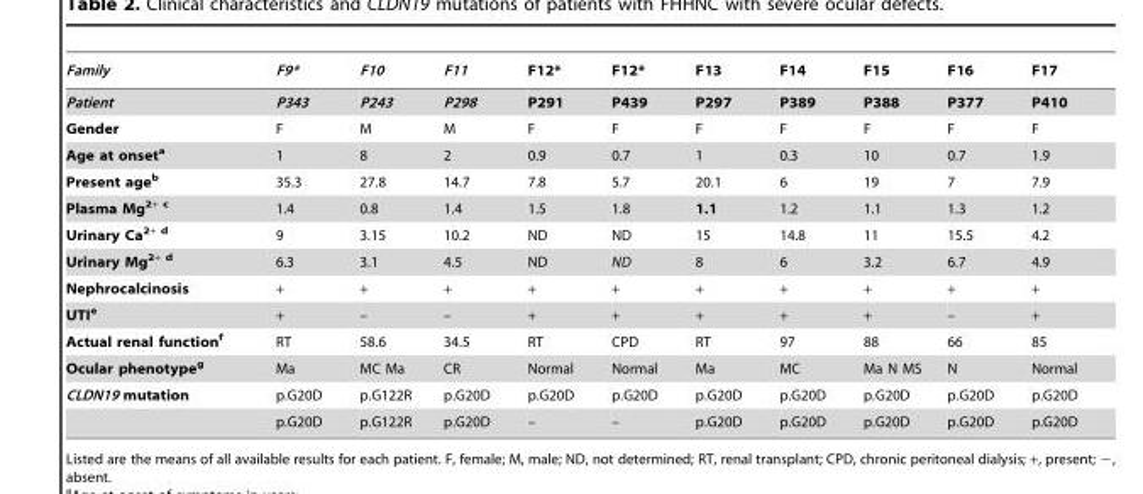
<table><thead><tr><td>Family</td><td>F9*</td><td>F10</td><td>F11</td><td>F12*</td><td>F12*</td><td>F13</td><td>F14</td><td>F15</td><td>F16</td><td>F17</td></tr></thead><tbody><tr><td>Patient</td><td>P343</td><td>P243</td><td>P298</td><td>P291</td><td>P439</td><td>P297</td><td>P389</td><td>P388</td><td>P377</td><td>P410</td></tr><tr><td>Gender</td><td>F</td><td>M</td><td>M</td><td>F</td><td>F</td><td>F</td><td>F</td><td>F</td><td>F</td><td>F</td></tr><tr><td>Age at onseta</td><td>1</td><td>8</td><td>2</td><td>0.9</td><td>0.7</td><td>1</td><td>0.3</td><td>10</td><td>0.7</td><td>1.9</td></tr><tr><td>Present ageb</td><td>35.3</td><td>27.8</td><td>14.7</td><td>7.8</td><td>5.7</td><td>20.1</td><td>6</td><td>19</td><td>7</td><td>7.9</td></tr><tr><td>Plasma Mg<sup>2+</sup> c</td><td>1.4</td><td>0.8</td><td>1.4</td><td>1.5</td><td>1.8</td><td>1.1</td><td>1.2</td><td>1.1</td><td>1.3</td><td>1.2</td></tr><tr><td>Urinary Ca<sup>2+</sup> d</td><td>9</td><td>3.15</td><td>10.2</td><td>ND</td><td>ND</td><td>15</td><td>14.8</td><td>11</td><td>15.5</td><td>4.2</td></tr><tr><td>Urinary Mg<sup>2+</sup> d</td><td>6.3</td><td>3.1</td><td>4.5</td><td>ND</td><td>ND</td><td>8</td><td>6</td><td>3.2</td><td>6.7</td><td>4.9</td></tr><tr><td>Nephrocalcinosis</td><td>+</td><td>+</td><td>+</td><td>+</td><td>+</td><td>+</td><td>+</td><td>+</td><td>+</td><td>+</td></tr><tr><td>UTIe</td><td>+</td><td>–</td><td>–</td><td>+</td><td>+</td><td>+</td><td>+</td><td>+</td><td>–</td><td>+</td></tr><tr><td>Actual renal functionf</td><td>RT</td><td>58.6</td><td>34.5</td><td>RT</td><td>CPD</td><td>RT</td><td>97</td><td>88</td><td>66</td><td>85</td></tr><tr><td>Ocular phenotypeg</td><td>Ma</td><td>MC Ma</td><td>CR</td><td>Normal</td><td>Normal</td><td>Ma</td><td>MC</td><td>Ma N MS</td><td>N</td><td>Normal</td></tr><tr><td rowspan="2">CLDN19 mutation</td><td>p.G20D</td><td>p.G122R</td><td>p.G20D</td><td>p.G20D</td><td>p.G20D</td><td>p.G20D</td><td>p.G20D</td><td>p.G20D</td><td>p.G20D</td><td>p.G20D</td></tr><tr><td>p.G20D</td><td>p.G122R</td><td>p.G20D</td><td>–</td><td>–</td><td>p.G20D</td><td>p.G20D</td><td>p.G20D</td><td>p.G20D</td><td>p.G20D</td></tr></tbody></table>